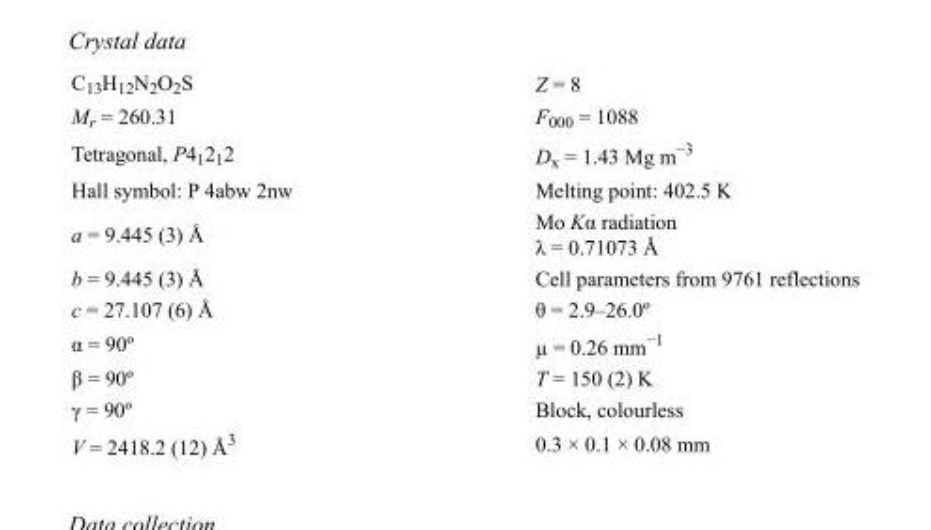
<table><tbody><tr><td>C<sub>13</sub>H<sub>12</sub>N<sub>2</sub>O<sub>2</sub>S</td><td>Z = 8</td></tr><tr><td>M<sub>r</sub> = 260.31</td><td>F<sub>000</sub> = 1088</td></tr><tr><td>Tetragonal, P4<sub>1</sub>2<sub>1</sub>2</td><td>D<sub>x</sub> = 1.43 Mg m<sup>−3</sup></td></tr><tr><td>Hall symbol: P 4abw 2nw</td><td>Melting point: 402.5 K</td></tr><tr><td>a = 9.445 (3) Å</td><td>Mo Kα radiation λ = 0.71073 Å</td></tr><tr><td>b = 9.445 (3) Å</td><td>Cell parameters from 9761 reflections</td></tr><tr><td>c = 27.107 (6) Å</td><td>θ = 2.9–26.0º</td></tr><tr><td>α = 90º</td><td>µ = 0.26 mm<sup>−1</sup></td></tr><tr><td>β = 90º</td><td>T = 150 (2) K</td></tr><tr><td>γ = 90º</td><td>Block, colourless</td></tr><tr><td>V = 2418.2 (12) Å<sup>3</sup></td><td>0.3 × 0.1 × 0.08 mm</td></tr></tbody></table>